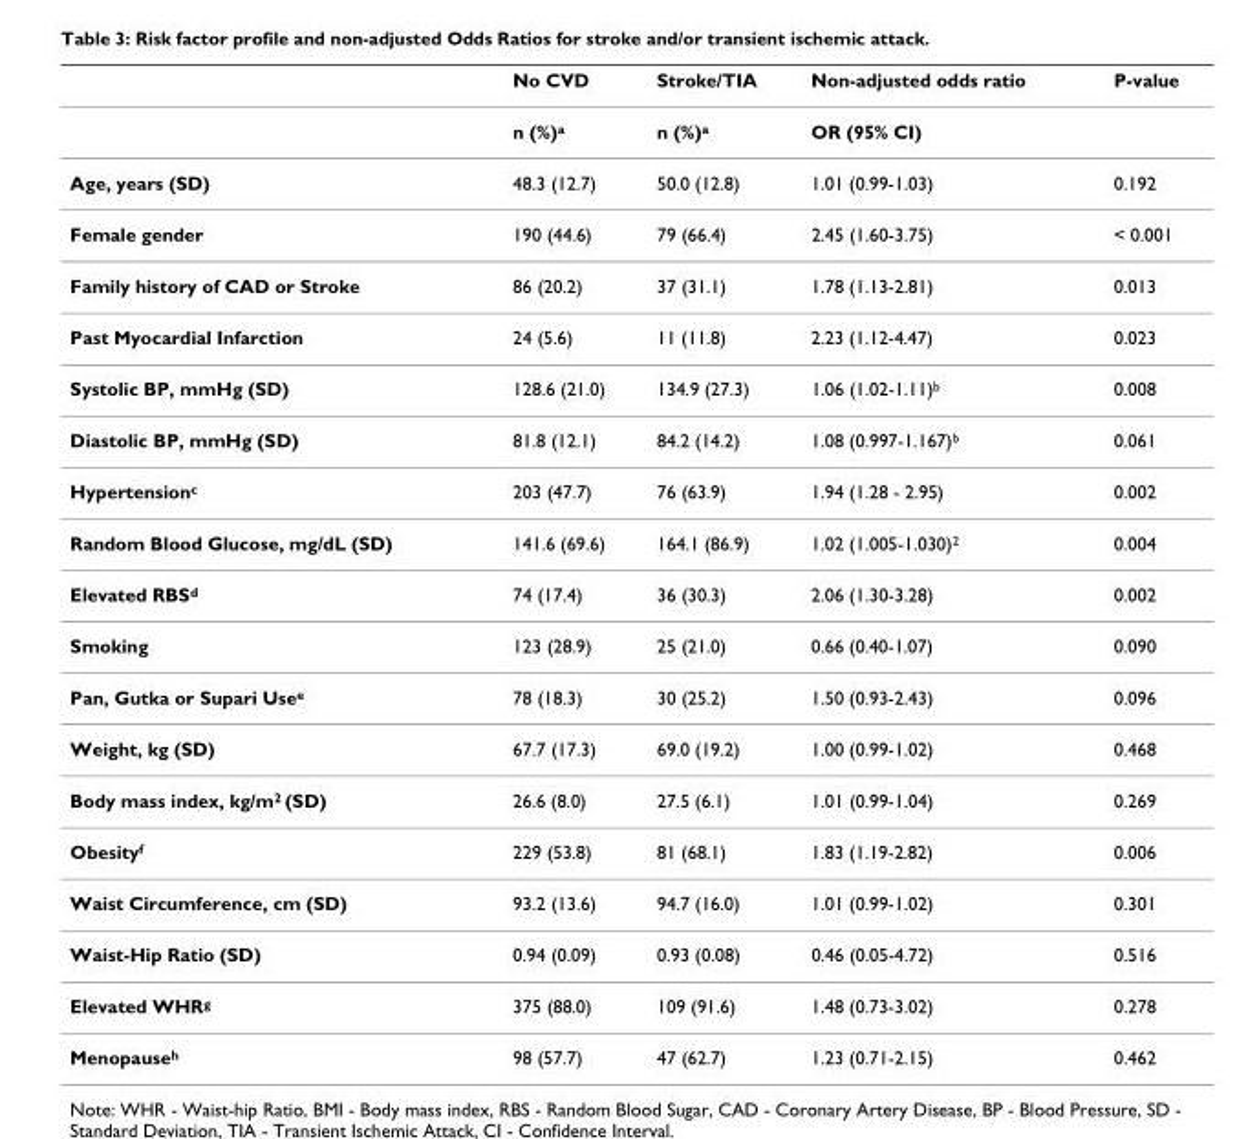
<table><thead><tr><td></td><td>No CVD</td><td>Stroke/TIA</td><td>Non-adjusted odds ratio</td><td>P-value</td></tr></thead><tbody><tr><td></td><td>n (%)<sup>a</sup></td><td>n (%)<sup>a</sup></td><td>OR (95% CI)</td><td></td></tr><tr><td>Age, years (SD)</td><td>48.3 (12.7)</td><td>50.0 (12.8)</td><td>1.01 (0.99-1.03)</td><td>0.192</td></tr><tr><td>Female gender</td><td>190 (44.6)</td><td>79 (66.4)</td><td>2.45 (1.60-3.75)</td><td>&lt; 0.001</td></tr><tr><td>Family history of CAD or Stroke</td><td>86 (20.2)</td><td>37 (31.1)</td><td>1.78 (1.13-2.81)</td><td>0.013</td></tr><tr><td>Past Myocardial Infarction</td><td>24 (5.6)</td><td>11 (11.8)</td><td>2.23 (1.12-4.47)</td><td>0.023</td></tr><tr><td>Systolic BP, mmHg (SD)</td><td>128.6 (21.0)</td><td>134.9 (27.3)</td><td>1.06 (1.02-1.11)<sup>b</sup></td><td>0.008</td></tr><tr><td>Diastolic BP, mmHg (SD)</td><td>81.8 (12.1)</td><td>84.2 (14.2)</td><td>1.08 (0.997-1.167)<sup>b</sup></td><td>0.061</td></tr><tr><td>Hypertension<sup>c</sup></td><td>203 (47.7)</td><td>76 (63.9)</td><td>1.94 (1.28 - 2.95)</td><td>0.002</td></tr><tr><td>Random Blood Glucose, mg/dL (SD)</td><td>141.6 (69.6)</td><td>164.1 (86.9)</td><td>1.02 (1.005-1.030)<sup>2</sup></td><td>0.004</td></tr><tr><td>Elevated RBS<sup>d</sup></td><td>74 (17.4)</td><td>36 (30.3)</td><td>2.06 (1.30-3.28)</td><td>0.002</td></tr><tr><td>Smoking</td><td>123 (28.9)</td><td>25 (21.0)</td><td>0.66 (0.40-1.07)</td><td>0.090</td></tr><tr><td>Pan, Gutka or Supari Use<sup>e</sup></td><td>78 (18.3)</td><td>30 (25.2)</td><td>1.50 (0.93-2.43)</td><td>0.096</td></tr><tr><td>Weight, kg (SD)</td><td>67.7 (17.3)</td><td>69.0 (19.2)</td><td>1.00 (0.99-1.02)</td><td>0.468</td></tr><tr><td>Body mass index, kg/m<sup>2</sup> (SD)</td><td>26.6 (8.0)</td><td>27.5 (6.1)</td><td>1.01 (0.99-1.04)</td><td>0.269</td></tr><tr><td>Obesity<sup>f</sup></td><td>229 (53.8)</td><td>81 (68.1)</td><td>1.83 (1.19-2.82)</td><td>0.006</td></tr><tr><td>Waist Circumference, cm (SD)</td><td>93.2 (13.6)</td><td>94.7 (16.0)</td><td>1.01 (0.99-1.02)</td><td>0.301</td></tr><tr><td>Waist-Hip Ratio (SD)</td><td>0.94 (0.09)</td><td>0.93 (0.08)</td><td>0.46 (0.05-4.72)</td><td>0.516</td></tr><tr><td>Elevated WHR<sup>g</sup></td><td>375 (88.0)</td><td>109 (91.6)</td><td>1.48 (0.73-3.02)</td><td>0.278</td></tr><tr><td>Menopause<sup>h</sup></td><td>98 (57.7)</td><td>47 (62.7)</td><td>1.23 (0.71-2.15)</td><td>0.462</td></tr></tbody></table>